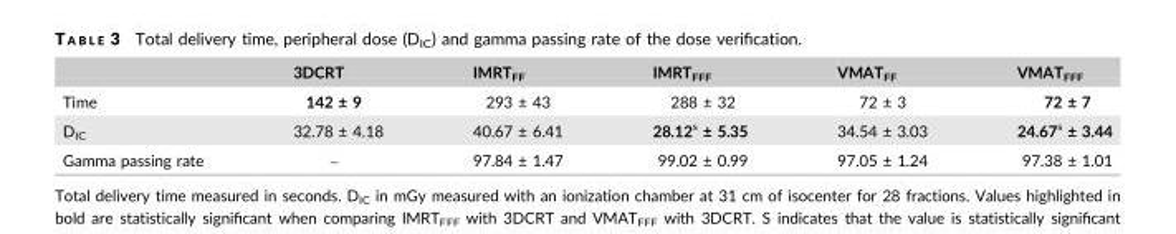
<table><thead><tr><td></td><td>3DCRT</td><td>IMRT<sub>FF</sub></td><td>IMRT<sub>FFF</sub></td><td>VMAT<sub>FF</sub></td><td>VMAT<sub>FFF</sub></td></tr></thead><tbody><tr><td>Time</td><td>142 ± 9</td><td>293 ± 43</td><td>288 ± 32</td><td>72 ± 3</td><td>72 ± 7</td></tr><tr><td>D<sub>IC</sub></td><td>32.78 ± 4.18</td><td>40.67 ± 6.41</td><td>28.12<sup>s</sup> ± 5.35</td><td>34.54 ± 3.03</td><td>24.67<sup>s</sup> ± 3.44</td></tr><tr><td>Gamma passing rate</td><td>–</td><td>97.84 ± 1.47</td><td>99.02 ± 0.99</td><td>97.05 ± 1.24</td><td>97.38 ± 1.01</td></tr></tbody></table>